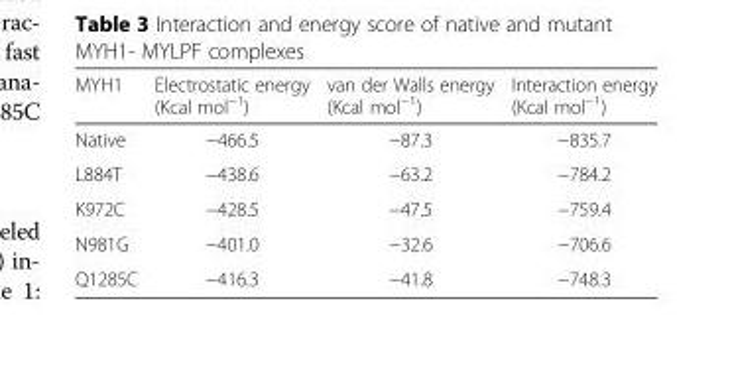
<table><thead><tr><td>MYH1</td><td>Electrostatic energy (Kcal mol<sup>−1</sup>)</td><td>van der Walls energy (Kcal mol<sup>−1</sup>)</td><td>Interaction energy (Kcal mol<sup>−1</sup>)</td></tr></thead><tbody><tr><td>Native</td><td>−466.5</td><td>−87.3</td><td>−835.7</td></tr><tr><td>L884T</td><td>−438.6</td><td>−63.2</td><td>−784.2</td></tr><tr><td>K972C</td><td>−428.5</td><td>−47.5</td><td>−759.4</td></tr><tr><td>N981G</td><td>−401.0</td><td>−32.6</td><td>−706.6</td></tr><tr><td>Q1285C</td><td>−416.3</td><td>−41.8</td><td>−748.3</td></tr></tbody></table>